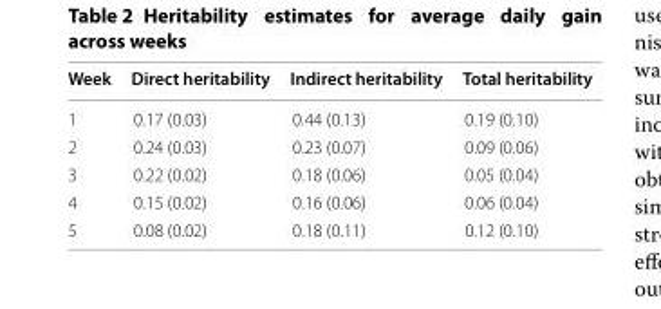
<table><thead><tr><td>Week</td><td>Direct heritability</td><td>Indirect heritability</td><td>Total heritability</td></tr></thead><tbody><tr><td>1</td><td>0.17 (0.03)</td><td>0.44 (0.13)</td><td>0.19 (0.10)</td></tr><tr><td>2</td><td>0.24 (0.03)</td><td>0.23 (0.07)</td><td>0.09 (0.06)</td></tr><tr><td>3</td><td>0.22 (0.02)</td><td>0.18 (0.06)</td><td>0.05 (0.04)</td></tr><tr><td>4</td><td>0.15 (0.02)</td><td>0.16 (0.06)</td><td>0.06 (0.04)</td></tr><tr><td>5</td><td>0.08 (0.02)</td><td>0.18 (0.11)</td><td>0.12 (0.10)</td></tr></tbody></table>